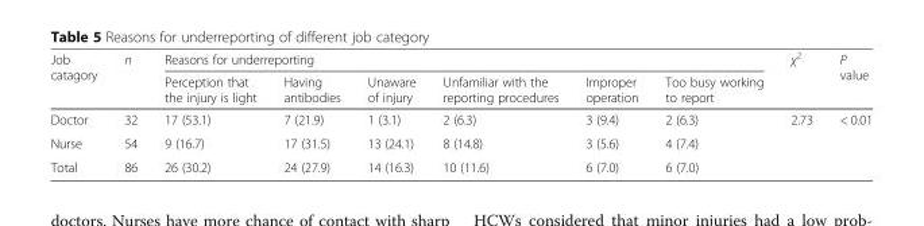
<table><thead><tr><td rowspan="2">Job catagory</td><td rowspan="2">n</td><td colspan="6">Reasons for underreporting</td><td rowspan="2">χ<sup>2</sup></td><td rowspan="2">P value</td></tr><tr><td>Perception that the injury is light</td><td>Having antibodies</td><td>Unaware of injury</td><td>Unfamiliar with the reporting procedures</td><td>Improper operation</td><td>Too busy working to report</td></tr></thead><tbody><tr><td>Doctor</td><td>32</td><td>17 (53.1)</td><td>7 (21.9)</td><td>1 (3.1)</td><td>2 (6.3)</td><td>3 (9.4)</td><td>2 (6.3)</td><td rowspan="2">2.73</td><td rowspan="2">&lt; 0.01</td></tr><tr><td>Nurse</td><td>54</td><td>9 (16.7)</td><td>17 (31.5)</td><td>13 (24.1)</td><td>8 (14.8)</td><td>3 (5.6)</td><td>4 (7.4)</td></tr><tr><td>Total</td><td>86</td><td>26 (30.2)</td><td>24 (27.9)</td><td>14 (16.3)</td><td>10 (11.6)</td><td>6 (7.0)</td><td>6 (7.0)</td><td></td><td></td></tr></tbody></table>